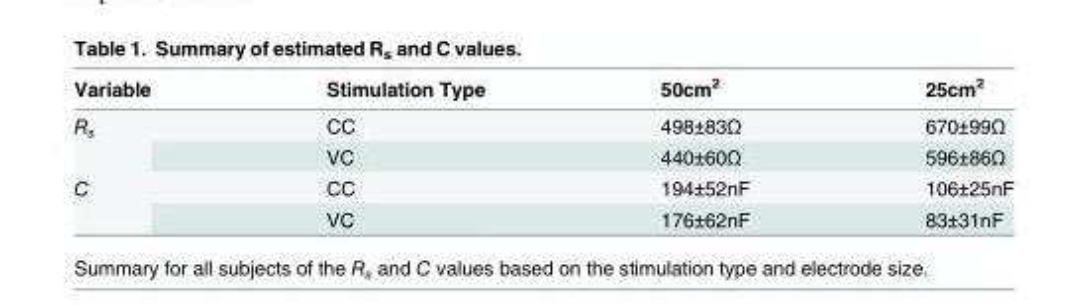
<table><thead><tr><td>Variable</td><td>Stimulation Type</td><td>50cm<sup>2</sup></td><td>25cm<sup>2</sup></td></tr></thead><tbody><tr><td rowspan="2">R<sub>s</sub></td><td>CC</td><td>498±83Ω</td><td>670±99Ω</td></tr><tr><td>VC</td><td>440±60Ω</td><td>596±86Ω</td></tr><tr><td rowspan="2">C</td><td>CC</td><td>194±52nF</td><td>106±25nF</td></tr><tr><td>VC</td><td>176±62nF</td><td>83±31nF</td></tr></tbody></table>